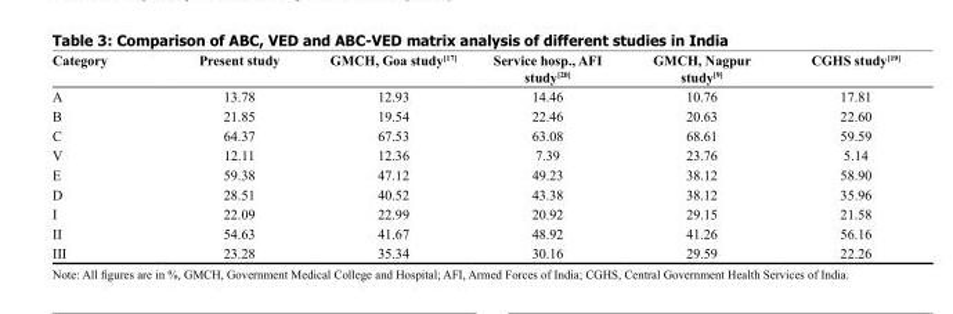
<table><thead><tr><td>Category</td><td>Present study</td><td>GMCH, Goa study[17]</td><td>Service hosp., AFI study[20]</td><td>GMCH, Nagpur study[9]</td><td>CGHS study[19]</td></tr></thead><tbody><tr><td>A</td><td>13.78</td><td>12.93</td><td>14.46</td><td>10.76</td><td>17.81</td></tr><tr><td>B</td><td>21.85</td><td>19.54</td><td>22.46</td><td>20.63</td><td>22.60</td></tr><tr><td>C</td><td>64.37</td><td>67.53</td><td>63.08</td><td>68.61</td><td>59.59</td></tr><tr><td>V</td><td>12.11</td><td>12.36</td><td>7.39</td><td>23.76</td><td>5.14</td></tr><tr><td>E</td><td>59.38</td><td>47.12</td><td>49.23</td><td>38.12</td><td>58.90</td></tr><tr><td>D</td><td>28.51</td><td>40.52</td><td>43.38</td><td>38.12</td><td>35.96</td></tr><tr><td>I</td><td>22.09</td><td>22.99</td><td>20.92</td><td>29.15</td><td>21.58</td></tr><tr><td>II</td><td>54.63</td><td>41.67</td><td>48.92</td><td>41.26</td><td>56.16</td></tr><tr><td>III</td><td>23.28</td><td>35.34</td><td>30.16</td><td>29.59</td><td>22.26</td></tr></tbody></table>